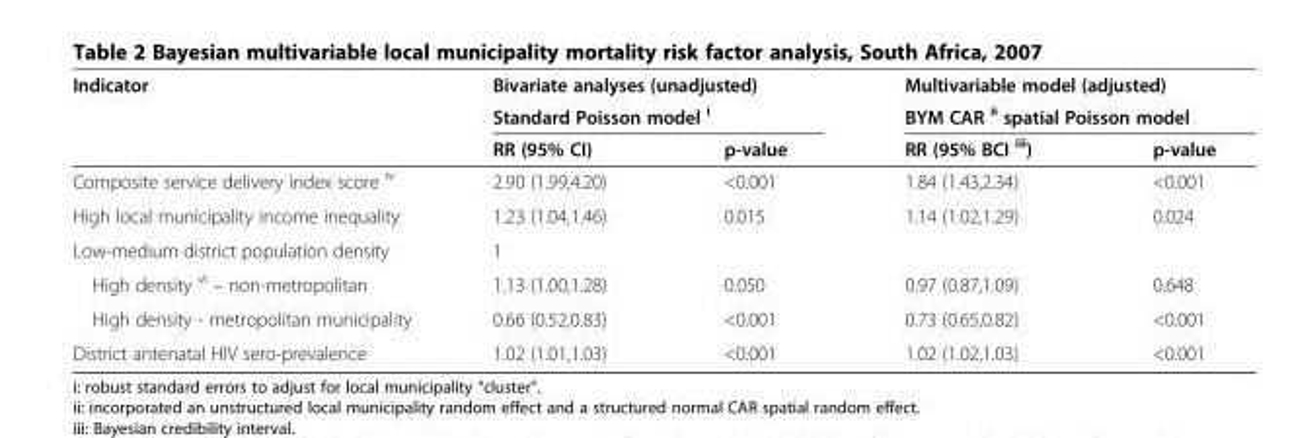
<table><thead><tr><td rowspan="3">Indicator</td><td rowspan="2" colspan="2">Bivariate analyses (unadjusted) Standard Poisson model <sup>i</sup></td><td rowspan="2" colspan="2">Multivariable model (adjusted) BYM CAR <sup>ii</sup> spatial Poisson model</td></tr><tr></tr><tr><td>RR (95% CI)</td><td>p-value</td><td>RR (95% BCI <sup>iii</sup>)</td><td>p-value</td></tr></thead><tbody><tr><td>Composite service delivery index score <sup>iv</sup></td><td>2.90 (1.99,4.20)</td><td>&lt;0.001</td><td>1.84 (1.43,2.34)</td><td>&lt;0.001</td></tr><tr><td>High local municipality income inequality</td><td>1.23 (1.04,1.46)</td><td>0.015</td><td>1.14 (1.02,1.29)</td><td>0.024</td></tr><tr><td>Low-medium district population density</td><td>1</td><td></td><td></td><td></td></tr><tr><td>High density <sup>vi</sup> – non-metropolitan</td><td>1.13 (1.00,1.28)</td><td>0.050</td><td>0.97 (0.87,1.09)</td><td>0.648</td></tr><tr><td>High density - metropolitan municipality</td><td>0.66 (0.52,0.83)</td><td>&lt;0.001</td><td>0.73 (0.65,0.82)</td><td>&lt;0.001</td></tr><tr><td>District antenatal HIV sero-prevalence</td><td>1.02 (1.01,1.03)</td><td>&lt;0.001</td><td>1.02 (1.02,1.03)</td><td>&lt;0.001</td></tr></tbody></table>